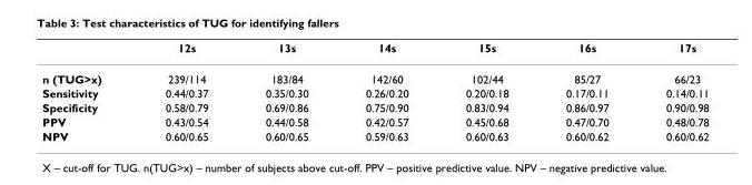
<table><thead><tr><td></td><td>12s</td><td>13s</td><td>14s</td><td>15s</td><td>16s</td><td>17s</td></tr></thead><tbody><tr><td>n (TUG&gt;x)</td><td>239/114</td><td>183/84</td><td>142/60</td><td>102/44</td><td>85/27</td><td>66/23</td></tr><tr><td>Sensitivity</td><td>0.44/0.37</td><td>0.35/0.30</td><td>0.26/0.20</td><td>0.20/0.18</td><td>0.17/0.11</td><td>0.14/0.11</td></tr><tr><td>Specificity</td><td>0.58/0.79</td><td>0.69/0.86</td><td>0.75/0.90</td><td>0.83/0.94</td><td>0.86/0.97</td><td>0.90/0.98</td></tr><tr><td>PPV</td><td>0.43/0.54</td><td>0.44/0.58</td><td>0.42/0.57</td><td>0.45/0.68</td><td>0.47/0.70</td><td>0.48/0.78</td></tr><tr><td>NPV</td><td>0.60/0.65</td><td>0.60/0.65</td><td>0.59/0.63</td><td>0.60/0.63</td><td>0.60/0.62</td><td>0.60/0.62</td></tr></tbody></table>